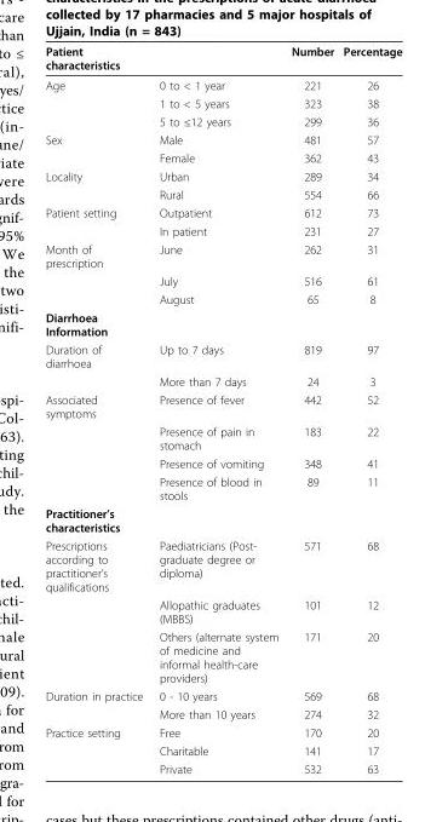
<table><thead><tr><td>Patient characteristics</td><td></td><td>Number</td><td>Percentage</td></tr></thead><tbody><tr><td rowspan="3">Age</td><td>0 to &lt; 1 year</td><td>221</td><td>26</td></tr><tr><td>1 to &lt; 5 years</td><td>323</td><td>38</td></tr><tr><td>5 to ≤12 years</td><td>299</td><td>36</td></tr><tr><td rowspan="2">Sex</td><td>Male</td><td>481</td><td>57</td></tr><tr><td>Female</td><td>362</td><td>43</td></tr><tr><td rowspan="2">Locality</td><td>Urban</td><td>289</td><td>34</td></tr><tr><td>Rural</td><td>554</td><td>66</td></tr><tr><td rowspan="2">Patient setting</td><td>Outpatient</td><td>612</td><td>73</td></tr><tr><td>In patient</td><td>231</td><td>27</td></tr><tr><td rowspan="3">Month of prescription</td><td>June</td><td>262</td><td>31</td></tr><tr><td>July</td><td>516</td><td>61</td></tr><tr><td>August</td><td>65</td><td>8</td></tr><tr><td colspan="4">Diarrhoea Information</td></tr><tr><td rowspan="2">Duration of diarrhoea</td><td>Up to 7 days</td><td>819</td><td>97</td></tr><tr><td>More than 7 days</td><td>24</td><td>3</td></tr><tr><td rowspan="4">Associated symptoms</td><td>Presence of fever</td><td>442</td><td>52</td></tr><tr><td>Presence of pain in stomach</td><td>183</td><td>22</td></tr><tr><td>Presence of vomiting</td><td>348</td><td>41</td></tr><tr><td>Presence of blood in stools</td><td>89</td><td>11</td></tr><tr><td colspan="4">Practitioner’s characteristics</td></tr><tr><td rowspan="3">Prescriptions according to practitioner’s qualifications</td><td>Paediatricians (Post- graduate degree or diploma)</td><td>571</td><td>68</td></tr><tr><td>Allopathic graduates (MBBS)</td><td>101</td><td>12</td></tr><tr><td>Others (alternate system of medicine and informal health-care providers)</td><td>171</td><td>20</td></tr><tr><td rowspan="2">Duration in practice</td><td>0 - 10 years</td><td>569</td><td>68</td></tr><tr><td>More than 10 years</td><td>274</td><td>32</td></tr><tr><td rowspan="3">Practice setting</td><td>Free</td><td>170</td><td>20</td></tr><tr><td>Charitable</td><td>141</td><td>17</td></tr><tr><td>Private</td><td>532</td><td>63</td></tr></tbody></table>